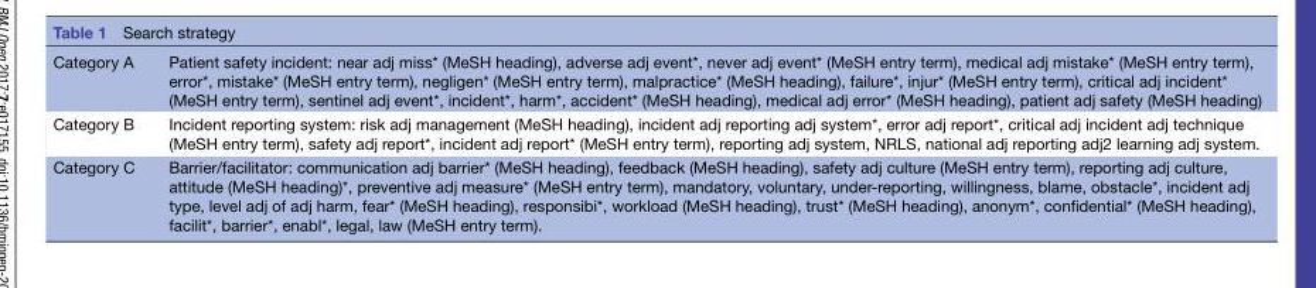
<table><tbody><tr><td>Category A</td><td>Patient safety incident: near adj miss* (MeSH heading), adverse adj event*, never adj event* (MeSH entry term), medical adj mistake* (MeSH entry term), error*, mistake* (MeSH entry term), negligen* (MeSH entry term), malpractice* (MeSH heading), failure*, injur* (MeSH entry term), critical adj incident* (MeSH entry term), sentinel adj event*, incident*, harm*, accident* (MeSH heading), medical adj error* (MeSH heading), patient adj safety (MeSH heading)</td></tr><tr><td>Category B</td><td>Incident reporting system: risk adj management (MeSH heading), incident adj reporting adj system*, error adj report*, critical adj incident adj technique (MeSH entry term), safety adj report*, incident adj report* (MeSH entry term), reporting adj system, NRLS, national adj reporting adj2 learning adj system.</td></tr><tr><td>Category C</td><td>Barrier/facilitator: communication adj barrier* (MeSH heading), feedback (MeSH heading), safety adj culture (MeSH entry term), reporting adj culture, attitude (MeSH heading)*, preventive adj measure* (MeSH entry term), mandatory, voluntary, under-reporting, willingness, blame, obstacle*, incident adj type, level adj of adj harm, fear* (MeSH heading), responsibi*, workload (MeSH heading), trust* (MeSH heading), anonym*, confidential* (MeSH heading), facilit*, barrier*, enabl*, legal, law (MeSH entry term).</td></tr></tbody></table>